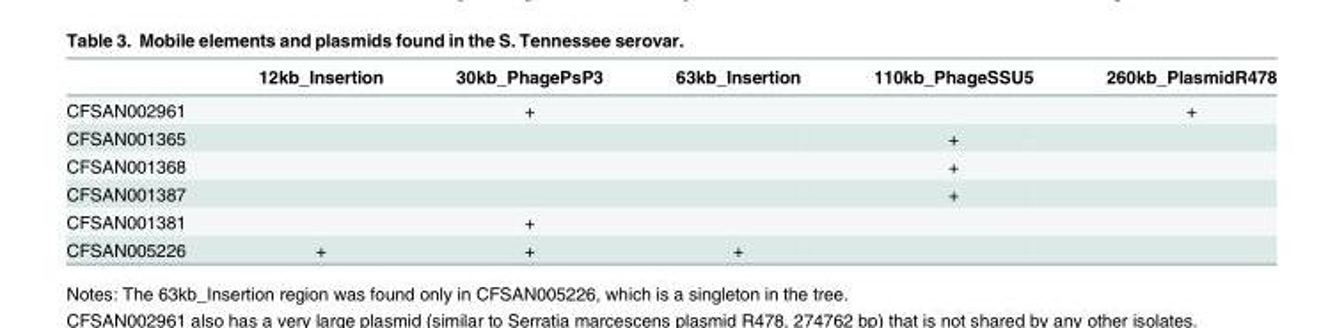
<table><thead><tr><td></td><td>12kb_Insertion</td><td>30kb_PhagePsP3</td><td>63kb_Insertion</td><td>110kb_PhageSSU5</td><td>260kb_PlasmidR478</td></tr></thead><tbody><tr><td>CFSAN002961</td><td></td><td>+</td><td></td><td></td><td>+</td></tr><tr><td>CFSAN001365</td><td></td><td></td><td></td><td>+</td><td></td></tr><tr><td>CFSAN001368</td><td></td><td></td><td></td><td>+</td><td></td></tr><tr><td>CFSAN001387</td><td></td><td></td><td></td><td>+</td><td></td></tr><tr><td>CFSAN001381</td><td></td><td>+</td><td></td><td></td><td></td></tr><tr><td>CFSAN005226</td><td>+</td><td>+</td><td>+</td><td></td><td></td></tr></tbody></table>